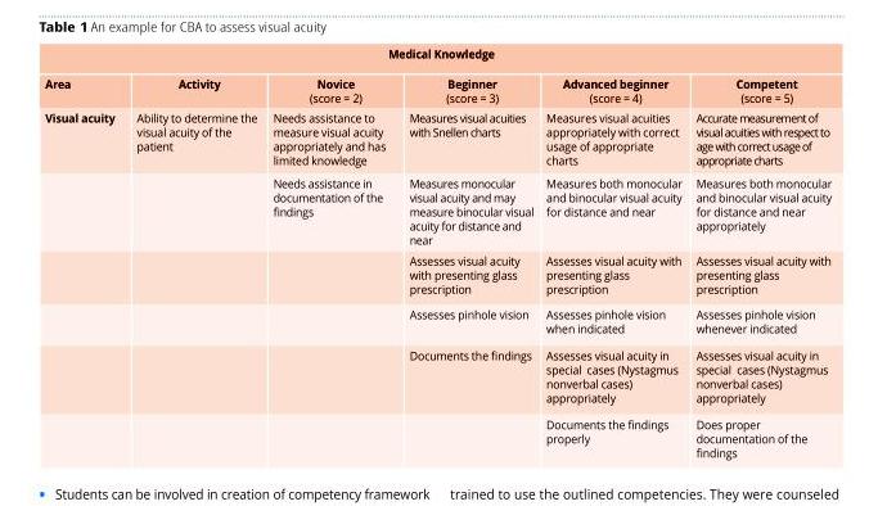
<table><thead><tr><td colspan="6">Medical Knowledge</td></tr><tr><td>Area</td><td>Activity</td><td>Novice (score = 2)</td><td>Beginner (score = 3)</td><td>Advanced beginner (score = 4)</td><td>Competent (score = 5)</td></tr></thead><tbody><tr><td rowspan="6">Visual acuity</td><td>Ability to determine the visual acuity of the patient</td><td>Needs assistance to measure visual acuity appropriately and has limited knowledge</td><td>Measures visual acuities with Snellen charts</td><td>Measures visual acuities appropriately with correct usage of appropriate charts</td><td>Accurate measurement of visual acuities with respect to age with correct usage of appropriate charts</td></tr><tr><td></td><td>Needs assistance in documentation of the findings</td><td>Measures monocular visual acuity and may measure binocular visual acuity for distance and near</td><td>Measures both monocular and binocular visual acuity for distance and near</td><td>Measures both monocular and binocular visual acuity for distance and near appropriately</td></tr><tr><td></td><td></td><td>Assesses visual acuity with presenting glass prescription</td><td>Assesses visual acuity with presenting glass prescription</td><td>Assesses visual acuity with presenting glass prescription</td></tr><tr><td></td><td></td><td>Assesses pinhole vision</td><td>Assesses pinhole vision when indicated</td><td>Assesses pinhole vision whenever indicated</td></tr><tr><td></td><td></td><td>Documents the findings</td><td>Assesses visual acuity in special cases (Nystagmus nonverbal cases) appropriately</td><td>Assesses visual acuity in special cases (Nystagmus nonverbal cases) appropriately</td></tr><tr><td></td><td></td><td></td><td>Documents the findings properly</td><td>Does proper documentation of the findings</td></tr></tbody></table>